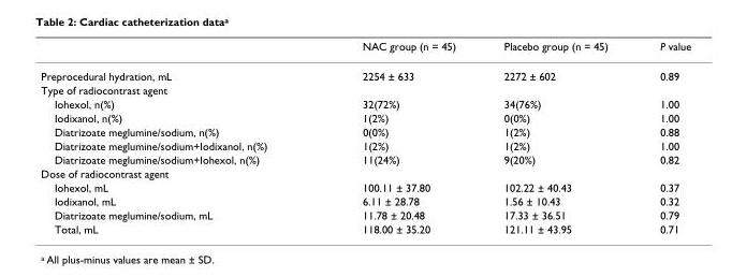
<table><thead><tr><td></td><td>NAC group (n = 45)</td><td>Placebo group (n = 45)</td><td>P value</td></tr></thead><tbody><tr><td>Preprocedural hydration, mL</td><td>2254 ± 633</td><td>2272 ± 602</td><td>0.89</td></tr><tr><td colspan="4">Type of radiocontrast agent</td></tr><tr><td>Iohexol, n(%)</td><td>32(72%)</td><td>34(76%)</td><td>1.00</td></tr><tr><td>Iodixanol, n(%)</td><td>1(2%)</td><td>0(0%)</td><td>1.00</td></tr><tr><td>Diatrizoate meglumine/sodium, n(%)</td><td>0(0%)</td><td>1(2%)</td><td>0.88</td></tr><tr><td>Diatrizoate meglumine/sodium+Iodixanol, n(%)</td><td>1(2%)</td><td>1(2%)</td><td>1.00</td></tr><tr><td>Diatrizoate meglumine/sodium+Iohexol, n(%)</td><td>11(24%)</td><td>9(20%)</td><td>0.82</td></tr><tr><td colspan="4">Dose of radiocontrast agent</td></tr><tr><td>Iohexol, mL</td><td>100.11 ± 37.80</td><td>102.22 ± 40.43</td><td>0.37</td></tr><tr><td>Iodixanol, mL</td><td>6.11 ± 28.78</td><td>1.56 ± 10.43</td><td>0.32</td></tr><tr><td>Diatrizoate meglumine/sodium, mL</td><td>11.78 ± 20.48</td><td>17.33 ± 36.51</td><td>0.79</td></tr><tr><td>Total, mL</td><td>118.00 ± 35.20</td><td>121.11 ± 43.95</td><td>0.71</td></tr></tbody></table>